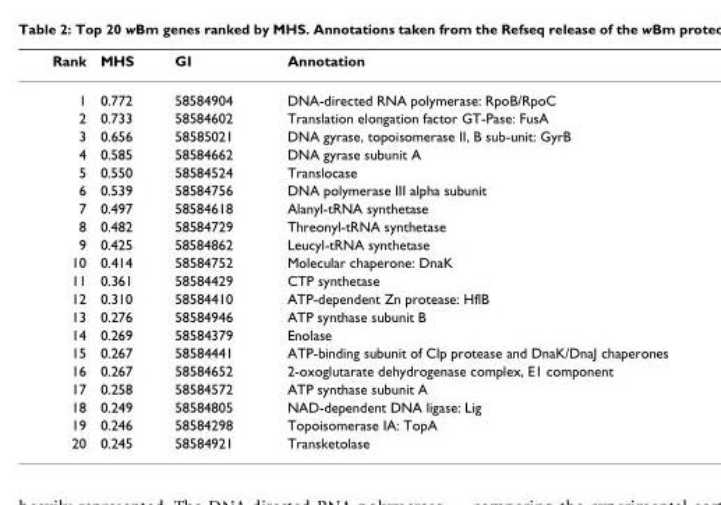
<table><thead><tr><td>Rank</td><td>MHS</td><td>GI</td><td>Annotation</td></tr></thead><tbody><tr><td>1</td><td>0.772</td><td>58584904</td><td>DNA-directed RNA polymerase: RpoB/RpoC</td></tr><tr><td>2</td><td>0.733</td><td>58584602</td><td>Translation elongation factor GT-Pase: FusA</td></tr><tr><td>3</td><td>0.656</td><td>58585021</td><td>DNA gyrase, topoisomerase II, B sub-unit: GyrB</td></tr><tr><td>4</td><td>0.585</td><td>58584662</td><td>DNA gyrase subunit A</td></tr><tr><td>5</td><td>0.550</td><td>58584524</td><td>Translocase</td></tr><tr><td>6</td><td>0.539</td><td>58584756</td><td>DNA polymerase III alpha subunit</td></tr><tr><td>7</td><td>0.497</td><td>58584618</td><td>Alanyl-tRNA synthetase</td></tr><tr><td>8</td><td>0.482</td><td>58584729</td><td>Threonyl-tRNA synthetase</td></tr><tr><td>9</td><td>0.425</td><td>58584862</td><td>Leucyl-tRNA synthetase</td></tr><tr><td>10</td><td>0.414</td><td>58584752</td><td>Molecular chaperone: DnaK</td></tr><tr><td>11</td><td>0.361</td><td>58584429</td><td>CTP synthetase</td></tr><tr><td>12</td><td>0.310</td><td>58584410</td><td>ATP-dependent Zn protease: HflB</td></tr><tr><td>13</td><td>0.276</td><td>58584946</td><td>ATP synthase subunit B</td></tr><tr><td>14</td><td>0.269</td><td>58584379</td><td>Enolase</td></tr><tr><td>15</td><td>0.267</td><td>58584441</td><td>ATP-binding subunit of Clp protease and DnaK/DnaJ chaperones</td></tr><tr><td>16</td><td>0.267</td><td>58584652</td><td>2-oxoglutarate dehydrogenase complex, E1 component</td></tr><tr><td>17</td><td>0.258</td><td>58584572</td><td>ATP synthase subunit A</td></tr><tr><td>18</td><td>0.249</td><td>58584805</td><td>NAD-dependent DNA ligase: Lig</td></tr><tr><td>19</td><td>0.246</td><td>58584298</td><td>Topoisomerase IA: TopA</td></tr><tr><td>20</td><td>0.245</td><td>58584921</td><td>Transketolase</td></tr></tbody></table>